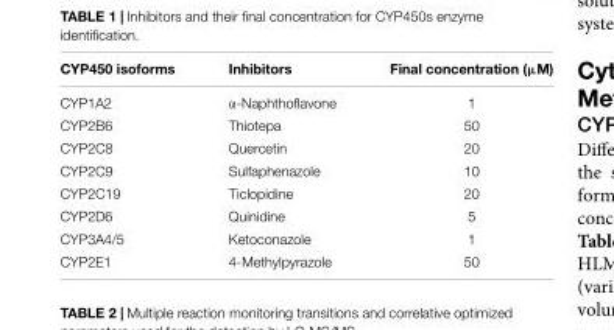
<table><thead><tr><td>CYP450 isoforms</td><td>Inhibitors</td><td>Final concentration (µM)</td></tr></thead><tbody><tr><td>CYP1A2</td><td>α-Naphthoflavone</td><td>1</td></tr><tr><td>CYP2B6</td><td>Thiotepa</td><td>50</td></tr><tr><td>CYP2C8</td><td>Quercetin</td><td>20</td></tr><tr><td>CYP2C9</td><td>Sulfaphenazole</td><td>10</td></tr><tr><td>CYP2C19</td><td>Ticlopidine</td><td>20</td></tr><tr><td>CYP2D6</td><td>Quinidine</td><td>5</td></tr><tr><td>CYP3A4/5</td><td>Ketoconazole</td><td>1</td></tr><tr><td>CYP2E1</td><td>4-Methylpyrazole</td><td>50</td></tr></tbody></table>